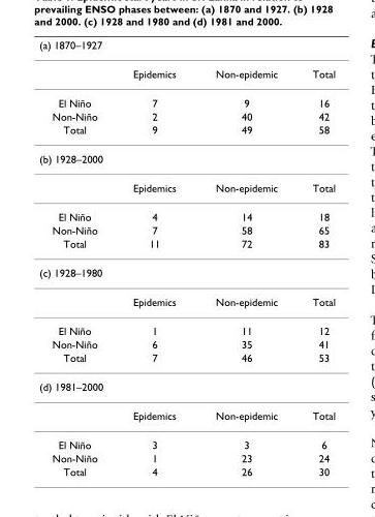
<table><thead><tr><td colspan="4">(a) 1870–1927</td></tr><tr><td></td><td>Epidemics</td><td>Non-epidemic</td><td>Total</td></tr></thead><tbody><tr><td>El Niño</td><td>7</td><td>9</td><td>16</td></tr><tr><td>Non-Niño</td><td>2</td><td>40</td><td>42</td></tr><tr><td>Total</td><td>9</td><td>49</td><td>58</td></tr><tr><td colspan="4">(b) 1928–2000</td></tr><tr><td></td><td>Epidemics</td><td>Non-epidemic</td><td>Total</td></tr><tr><td>El Niño</td><td>4</td><td>14</td><td>18</td></tr><tr><td>Non-Niño</td><td>7</td><td>58</td><td>65</td></tr><tr><td>Total</td><td>11</td><td>72</td><td>83</td></tr><tr><td colspan="4">(c) 1928–1980</td></tr><tr><td></td><td>Epidemics</td><td>Non-epidemic</td><td>Total</td></tr><tr><td>El Niño</td><td>1</td><td>11</td><td>12</td></tr><tr><td>Non-Niño</td><td>6</td><td>35</td><td>41</td></tr><tr><td>Total</td><td>7</td><td>46</td><td>53</td></tr><tr><td colspan="4">(d) 1981–2000</td></tr><tr><td></td><td>Epidemics</td><td>Non-epidemic</td><td>Total</td></tr><tr><td>El Niño</td><td>3</td><td>3</td><td>6</td></tr><tr><td>Non-Niño</td><td>1</td><td>23</td><td>24</td></tr><tr><td>Total</td><td>4</td><td>26</td><td>30</td></tr></tbody></table>